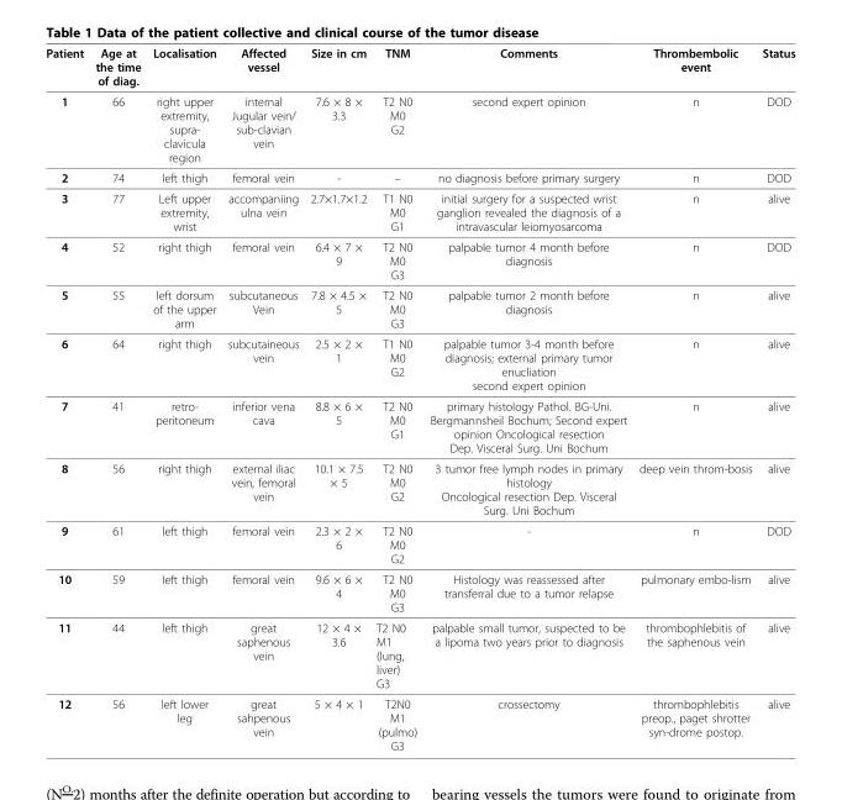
<table><thead><tr><td>Patient</td><td>Age at the time of diag.</td><td>Localisation</td><td>Affected vessel</td><td>Size in cm</td><td>TNM</td><td>Comments</td><td>Thrombembolic event</td><td>Status</td></tr></thead><tbody><tr><td>1</td><td>66</td><td>right upper extremity, supra- clavicula region</td><td>internal Jugular vein/ sub-clavian vein</td><td>7.6 × 8 × 3.3</td><td>T2 N0 M0 G2</td><td>second expert opinion</td><td>n</td><td>DOD</td></tr><tr><td>2</td><td>74</td><td>left thigh</td><td>femoral vein</td><td>-</td><td>–</td><td>no diagnosis before primary surgery</td><td>n</td><td>DOD</td></tr><tr><td>3</td><td>77</td><td>Left upper extremity, wrist</td><td>accompaniing ulna vein</td><td>2.7×1.7×1.2</td><td>T1 N0 M0 G1</td><td>initial surgery for a suspected wrist ganglion revealed the diagnosis of a intravascular leiomyosarcoma</td><td>n</td><td>alive</td></tr><tr><td>4</td><td>52</td><td>right thigh</td><td>femoral vein</td><td>6.4 × 7 × 9</td><td>T2 N0 M0 G3</td><td>palpable tumor 4 month before diagnosis</td><td>n</td><td>DOD</td></tr><tr><td>5</td><td>55</td><td>left dorsum of the upper arm</td><td>subcutaneous Vein</td><td>7.8 × 4.5 × 5</td><td>T2 N0 M0 G3</td><td>palpable tumor 2 month before diagnosis</td><td>n</td><td>alive</td></tr><tr><td>6</td><td>64</td><td>right thigh</td><td>subcutaineous vein</td><td>2.5 × 2 × 1</td><td>T1 N0 M0 G2</td><td>palpable tumor 3-4 month before diagnosis; external primary tumor enucliation second expert opinion</td><td>n</td><td>alive</td></tr><tr><td>7</td><td>41</td><td>retro- peritoneum</td><td>inferior vena cava</td><td>8.8 × 6 × 5</td><td>T2 N0 M0 G1</td><td>primary histology Pathol. BG-Uni. Bergmannsheil Bochum; Second expert opinion Oncological resection Dep. Visceral Surg. Uni Bochum</td><td>n</td><td>alive</td></tr><tr><td>8</td><td>56</td><td>right thigh</td><td>external iliac vein, femoral vein</td><td>10.1 × 7.5 × 5</td><td>T2 N0 M0 G2</td><td>3 tumor free lymph nodes in primary histology Oncological resection Dep. Visceral Surg. Uni Bochum</td><td>deep vein throm-bosis</td><td>alive</td></tr><tr><td>9</td><td>61</td><td>left thigh</td><td>femoral vein</td><td>2.3 × 2 × 6</td><td>T2 N0 M0 G2</td><td>-</td><td>n</td><td>DOD</td></tr><tr><td>10</td><td>59</td><td>left thigh</td><td>femoral vein</td><td>9.6 × 6 × 4</td><td>T2 N0 M0 G3</td><td>Histology was reassessed after transferral due to a tumor relapse</td><td>pulmonary embo-lism</td><td>alive</td></tr><tr><td>11</td><td>44</td><td>left thigh</td><td>great saphenous vein</td><td>12 × 4 × 3.6</td><td>T2 N0 M1 (lung, liver) G3</td><td>palpable small tumor, suspected to be a lipoma two years prior to diagnosis</td><td>thrombophlebitis of the saphenous vein</td><td>alive</td></tr><tr><td>12</td><td>56</td><td>left lower leg</td><td>great sahpenous vein</td><td>5 × 4 × 1</td><td>T2N0 M1 (pulmo) G3</td><td>crossectomy</td><td>thrombophlebitis preop., paget shrotter syn-drome postop.</td><td>alive</td></tr></tbody></table>